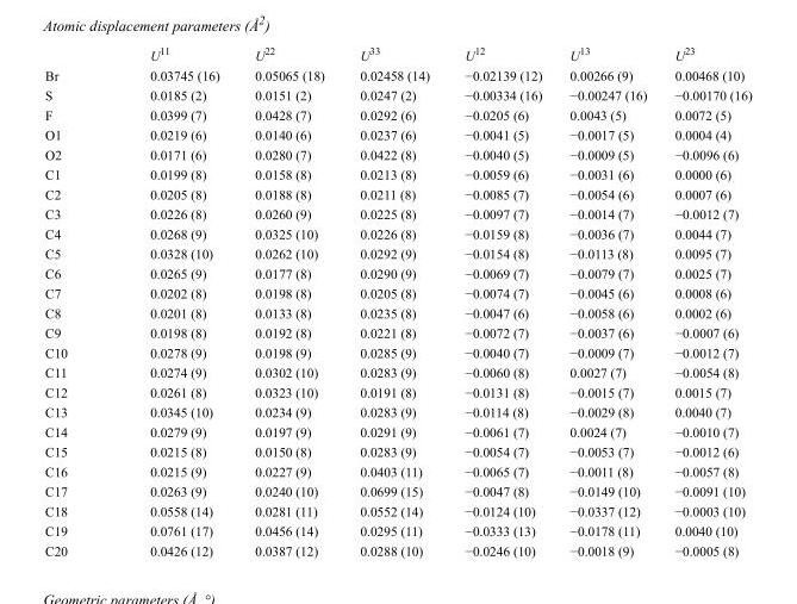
<table><thead><tr><td></td><td>U<sup>11</sup></td><td>U<sup>22</sup></td><td>U<sup>33</sup></td><td>U<sup>12</sup></td><td>U<sup>13</sup></td><td>U<sup>23</sup></td></tr></thead><tbody><tr><td>Br</td><td>0.03745 (16)</td><td>0.05065 (18)</td><td>0.02458 (14)</td><td>−0.02139 (12)</td><td>0.00266 (9)</td><td>0.00468 (10)</td></tr><tr><td>S</td><td>0.0185 (2)</td><td>0.0151 (2)</td><td>0.0247 (2)</td><td>−0.00334 (16)</td><td>−0.00247 (16)</td><td>−0.00170 (16)</td></tr><tr><td>F</td><td>0.0399 (7)</td><td>0.0428 (7)</td><td>0.0292 (6)</td><td>−0.0205 (6)</td><td>0.0043 (5)</td><td>0.0072 (5)</td></tr><tr><td>O1</td><td>0.0219 (6)</td><td>0.0140 (6)</td><td>0.0237 (6)</td><td>−0.0041 (5)</td><td>−0.0017 (5)</td><td>0.0004 (4)</td></tr><tr><td>O2</td><td>0.0171 (6)</td><td>0.0280 (7)</td><td>0.0422 (8)</td><td>−0.0040 (5)</td><td>−0.0009 (5)</td><td>−0.0096 (6)</td></tr><tr><td>C1</td><td>0.0199 (8)</td><td>0.0158 (8)</td><td>0.0213 (8)</td><td>−0.0059 (6)</td><td>−0.0031 (6)</td><td>0.0000 (6)</td></tr><tr><td>C2</td><td>0.0205 (8)</td><td>0.0188 (8)</td><td>0.0211 (8)</td><td>−0.0085 (7)</td><td>−0.0054 (6)</td><td>0.0007 (6)</td></tr><tr><td>C3</td><td>0.0226 (8)</td><td>0.0260 (9)</td><td>0.0225 (8)</td><td>−0.0097 (7)</td><td>−0.0014 (7)</td><td>−0.0012 (7)</td></tr><tr><td>C4</td><td>0.0268 (9)</td><td>0.0325 (10)</td><td>0.0226 (8)</td><td>−0.0159 (8)</td><td>−0.0036 (7)</td><td>0.0044 (7)</td></tr><tr><td>C5</td><td>0.0328 (10)</td><td>0.0262 (10)</td><td>0.0292 (9)</td><td>−0.0154 (8)</td><td>−0.0113 (8)</td><td>0.0095 (7)</td></tr><tr><td>C6</td><td>0.0265 (9)</td><td>0.0177 (8)</td><td>0.0290 (9)</td><td>−0.0069 (7)</td><td>−0.0079 (7)</td><td>0.0025 (7)</td></tr><tr><td>C7</td><td>0.0202 (8)</td><td>0.0198 (8)</td><td>0.0205 (8)</td><td>−0.0074 (7)</td><td>−0.0045 (6)</td><td>0.0008 (6)</td></tr><tr><td>C8</td><td>0.0201 (8)</td><td>0.0133 (8)</td><td>0.0235 (8)</td><td>−0.0047 (6)</td><td>−0.0058 (6)</td><td>0.0002 (6)</td></tr><tr><td>C9</td><td>0.0198 (8)</td><td>0.0192 (8)</td><td>0.0221 (8)</td><td>−0.0072 (7)</td><td>−0.0037 (6)</td><td>−0.0007 (6)</td></tr><tr><td>C10</td><td>0.0278 (9)</td><td>0.0198 (9)</td><td>0.0285 (9)</td><td>−0.0040 (7)</td><td>−0.0009 (7)</td><td>−0.0012 (7)</td></tr><tr><td>C11</td><td>0.0274 (9)</td><td>0.0302 (10)</td><td>0.0283 (9)</td><td>−0.0060 (8)</td><td>0.0027 (7)</td><td>−0.0054 (8)</td></tr><tr><td>C12</td><td>0.0261 (8)</td><td>0.0323 (10)</td><td>0.0191 (8)</td><td>−0.0131 (8)</td><td>−0.0015 (7)</td><td>0.0015 (7)</td></tr><tr><td>C13</td><td>0.0345 (10)</td><td>0.0234 (9)</td><td>0.0283 (9)</td><td>−0.0114 (8)</td><td>−0.0029 (8)</td><td>0.0040 (7)</td></tr><tr><td>C14</td><td>0.0279 (9)</td><td>0.0197 (9)</td><td>0.0291 (9)</td><td>−0.0061 (7)</td><td>0.0024 (7)</td><td>−0.0010 (7)</td></tr><tr><td>C15</td><td>0.0215 (8)</td><td>0.0150 (8)</td><td>0.0283 (9)</td><td>−0.0054 (7)</td><td>−0.0053 (7)</td><td>−0.0012 (6)</td></tr><tr><td>C16</td><td>0.0215 (9)</td><td>0.0227 (9)</td><td>0.0403 (11)</td><td>−0.0065 (7)</td><td>−0.0011 (8)</td><td>−0.0057 (8)</td></tr><tr><td>C17</td><td>0.0263 (9)</td><td>0.0240 (10)</td><td>0.0699 (15)</td><td>−0.0047 (8)</td><td>−0.0149 (10)</td><td>−0.0091 (10)</td></tr><tr><td>C18</td><td>0.0558 (14)</td><td>0.0281 (11)</td><td>0.0552 (14)</td><td>−0.0124 (10)</td><td>−0.0337 (12)</td><td>−0.0003 (10)</td></tr><tr><td>C19</td><td>0.0761 (17)</td><td>0.0456 (14)</td><td>0.0295 (11)</td><td>−0.0333 (13)</td><td>−0.0178 (11)</td><td>0.0040 (10)</td></tr><tr><td>C20</td><td>0.0426 (12)</td><td>0.0387 (12)</td><td>0.0288 (10)</td><td>−0.0246 (10)</td><td>−0.0018 (9)</td><td>−0.0005 (8)</td></tr></tbody></table>